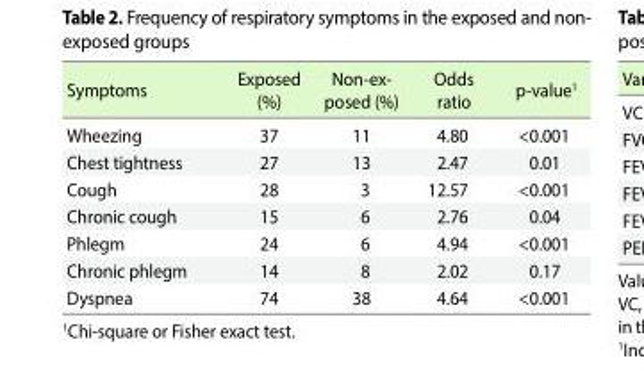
<table><thead><tr><td>Symptoms</td><td>Exposed (%)</td><td>Non-ex- posed (%)</td><td>Odds ratio</td><td>p-value<sup>1</sup></td></tr></thead><tbody><tr><td>Wheezing</td><td>37</td><td>11</td><td>4.80</td><td>&lt;0.001</td></tr><tr><td>Chest tightness</td><td>27</td><td>13</td><td>2.47</td><td>0.01</td></tr><tr><td>Cough</td><td>28</td><td>3</td><td>12.57</td><td>&lt;0.001</td></tr><tr><td>Chronic cough</td><td>15</td><td>6</td><td>2.76</td><td>0.04</td></tr><tr><td>Phlegm</td><td>24</td><td>6</td><td>4.94</td><td>&lt;0.001</td></tr><tr><td>Chronic phlegm</td><td>14</td><td>8</td><td>2.02</td><td>0.17</td></tr><tr><td>Dyspnea</td><td>74</td><td>38</td><td>4.64</td><td>&lt;0.001</td></tr></tbody></table>